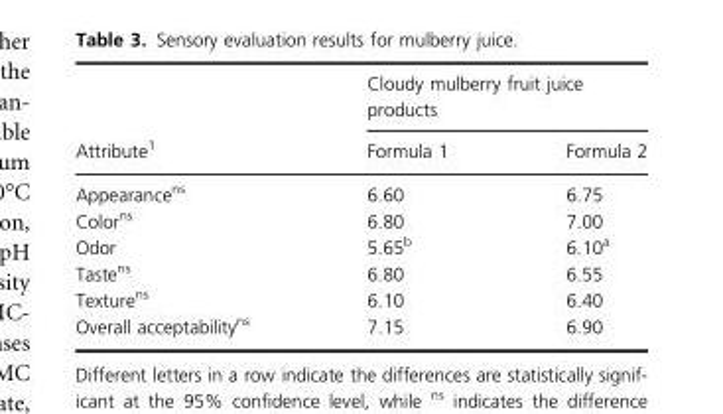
<table><thead><tr><td rowspan="2">Attribute<sup>1</sup></td><td colspan="2">Cloudy mulberry fruit juice products</td></tr><tr><td>Formula 1</td><td>Formula 2</td></tr></thead><tbody><tr><td>Appearance<sup>ns</sup></td><td>6.60</td><td>6.75</td></tr><tr><td>Color<sup>ns</sup></td><td>6.80</td><td>7.00</td></tr><tr><td>Odor</td><td>5.65<sup>b</sup></td><td>6.10<sup>a</sup></td></tr><tr><td>Taste<sup>ns</sup></td><td>6.80</td><td>6.55</td></tr><tr><td>Texture<sup>ns</sup></td><td>6.10</td><td>6.40</td></tr><tr><td>Overall acceptability<sup>ns</sup></td><td>7.15</td><td>6.90</td></tr></tbody></table>